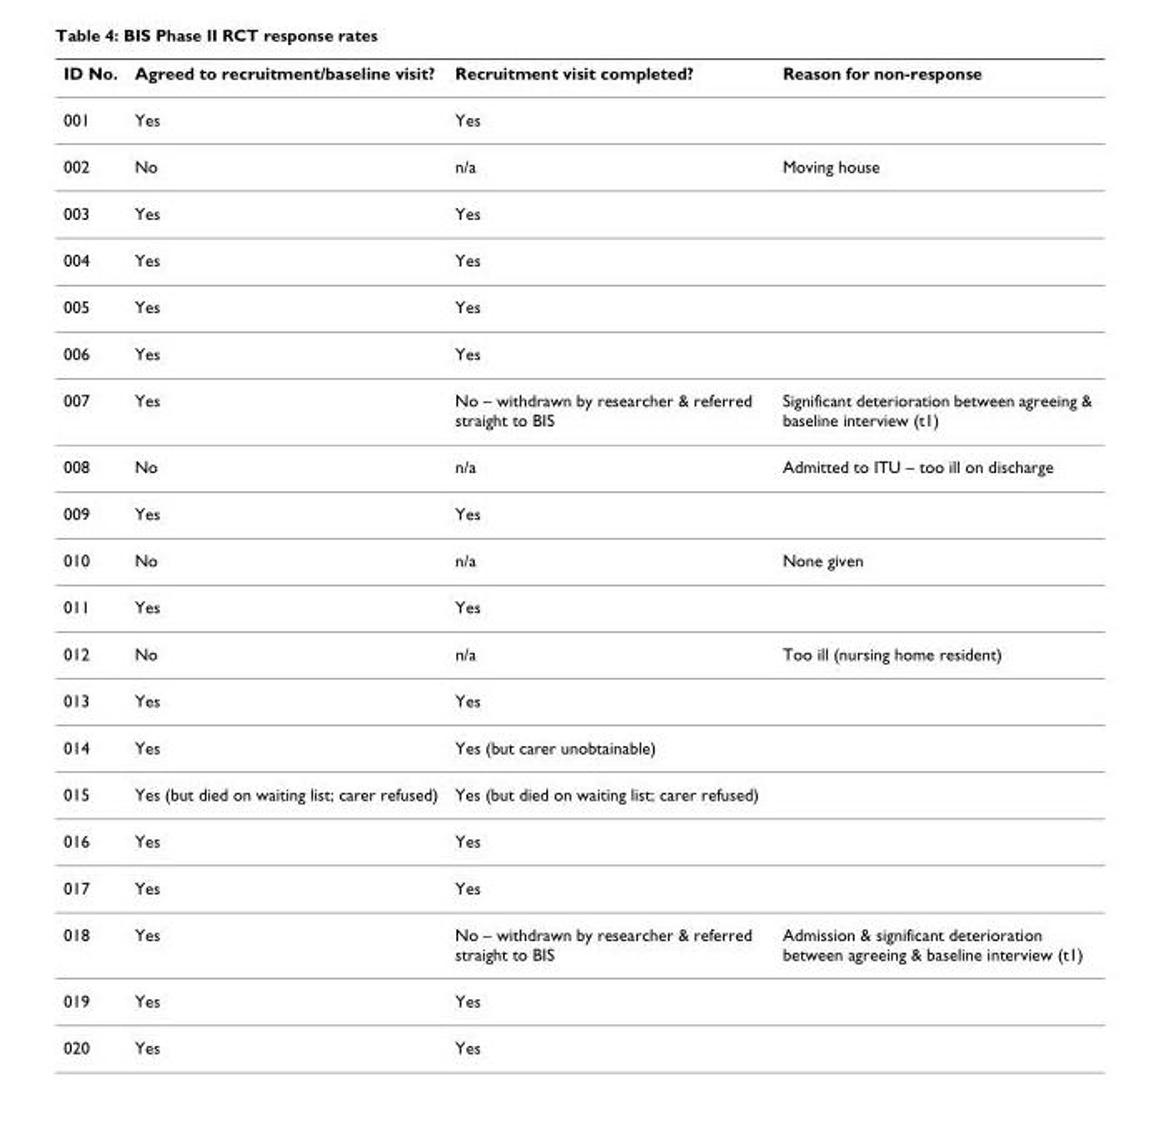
<table><thead><tr><td>ID No.</td><td>Agreed to recruitment/baseline visit?</td><td>Recruitment visit completed?</td><td>Reason for non-response</td></tr></thead><tbody><tr><td>001</td><td>Yes</td><td>Yes</td><td></td></tr><tr><td>002</td><td>No</td><td>n/a</td><td>Moving house</td></tr><tr><td>003</td><td>Yes</td><td>Yes</td><td></td></tr><tr><td>004</td><td>Yes</td><td>Yes</td><td></td></tr><tr><td>005</td><td>Yes</td><td>Yes</td><td></td></tr><tr><td>006</td><td>Yes</td><td>Yes</td><td></td></tr><tr><td>007</td><td>Yes</td><td>No – withdrawn by researcher &amp; referred straight to BIS</td><td>Significant deterioration between agreeing &amp; baseline interview (t1)</td></tr><tr><td>008</td><td>No</td><td>n/a</td><td>Admitted to ITU – too ill on discharge</td></tr><tr><td>009</td><td>Yes</td><td>Yes</td><td></td></tr><tr><td>010</td><td>No</td><td>n/a</td><td>None given</td></tr><tr><td>011</td><td>Yes</td><td>Yes</td><td></td></tr><tr><td>012</td><td>No</td><td>n/a</td><td>Too ill (nursing home resident)</td></tr><tr><td>013</td><td>Yes</td><td>Yes</td><td></td></tr><tr><td>014</td><td>Yes</td><td>Yes (but carer unobtainable)</td><td></td></tr><tr><td>015</td><td>Yes (but died on waiting list; carer refused)</td><td>Yes (but died on waiting list; carer refused)</td><td></td></tr><tr><td>016</td><td>Yes</td><td>Yes</td><td></td></tr><tr><td>017</td><td>Yes</td><td>Yes</td><td></td></tr><tr><td>018</td><td>Yes</td><td>No – withdrawn by researcher &amp; referred straight to BIS</td><td>Admission &amp; significant deterioration between agreeing &amp; baseline interview (t1)</td></tr><tr><td>019</td><td>Yes</td><td>Yes</td><td></td></tr><tr><td>020</td><td>Yes</td><td>Yes</td><td></td></tr></tbody></table>